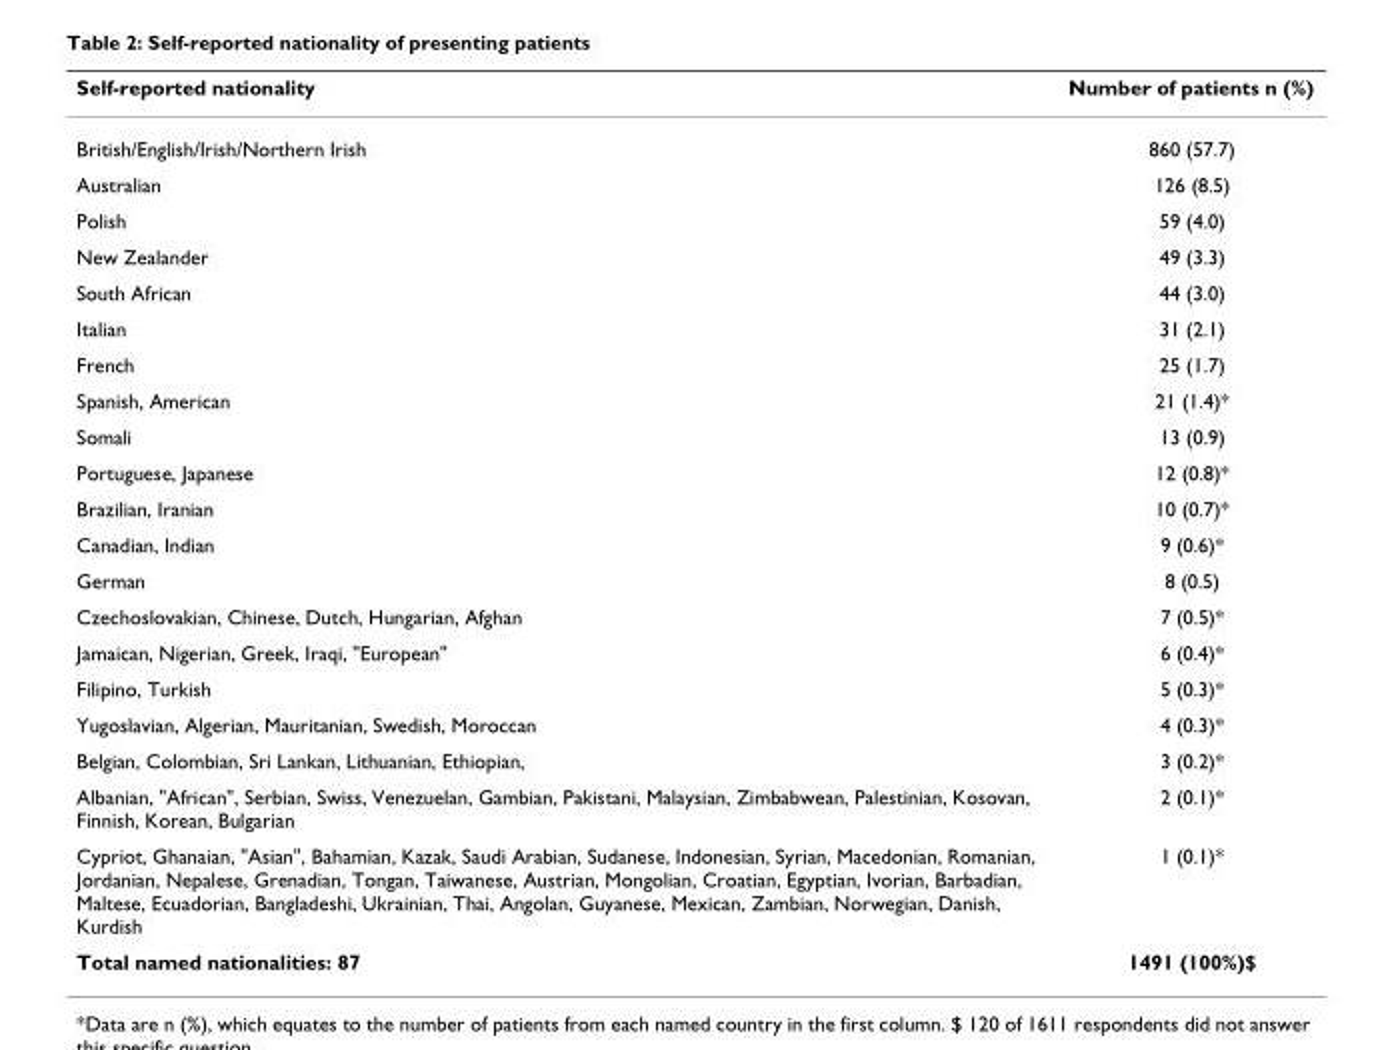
<table><thead><tr><td>Self-reported nationality</td><td>Number of patients n (%)</td></tr></thead><tbody><tr><td>British/English/Irish/Northern Irish</td><td>860 (57.7)</td></tr><tr><td>Australian</td><td>126 (8.5)</td></tr><tr><td>Polish</td><td>59 (4.0)</td></tr><tr><td>New Zealander</td><td>49 (3.3)</td></tr><tr><td>South African</td><td>44 (3.0)</td></tr><tr><td>Italian</td><td>31 (2.1)</td></tr><tr><td>French</td><td>25 (1.7)</td></tr><tr><td>Spanish, American</td><td>21 (1.4)*</td></tr><tr><td>Somali</td><td>13 (0.9)</td></tr><tr><td>Portuguese, Japanese</td><td>12 (0.8)*</td></tr><tr><td>Brazilian, Iranian</td><td>10 (0.7)*</td></tr><tr><td>Canadian, Indian</td><td>9 (0.6)*</td></tr><tr><td>German</td><td>8 (0.5)</td></tr><tr><td>Czechoslovakian, Chinese, Dutch, Hungarian, Afghan</td><td>7 (0.5)*</td></tr><tr><td>Jamaican, Nigerian, Greek, Iraqi, &quot;European&quot;</td><td>6 (0.4)*</td></tr><tr><td>Filipino, Turkish</td><td>5 (0.3)*</td></tr><tr><td>Yugoslavian, Algerian, Mauritanian, Swedish, Moroccan</td><td>4 (0.3)*</td></tr><tr><td>Belgian, Colombian, Sri Lankan, Lithuanian, Ethiopian,</td><td>3 (0.2)*</td></tr><tr><td>Albanian, &quot;African&quot;, Serbian, Swiss, Venezuelan, Gambian, Pakistani, Malaysian, Zimbabwean, Palestinian, Kosovan, Finnish, Korean, Bulgarian</td><td>2 (0.1)*</td></tr><tr><td>Cypriot, Ghanaian, &quot;Asian&quot;, Bahamian, Kazak, Saudi Arabian, Sudanese, Indonesian, Syrian, Macedonian, Romanian, Jordanian, Nepalese, Grenadian, Tongan, Taiwanese, Austrian, Mongolian, Croatian, Egyptian, Ivorian, Barbadian, Maltese, Ecuadorian, Bangladeshi, Ukrainian, Thai, Angolan, Guyanese, Mexican, Zambian, Norwegian, Danish, Kurdish</td><td>1 (0.1)*</td></tr><tr><td>Total named nationalities: 87</td><td>1491 (100%)$</td></tr></tbody></table>